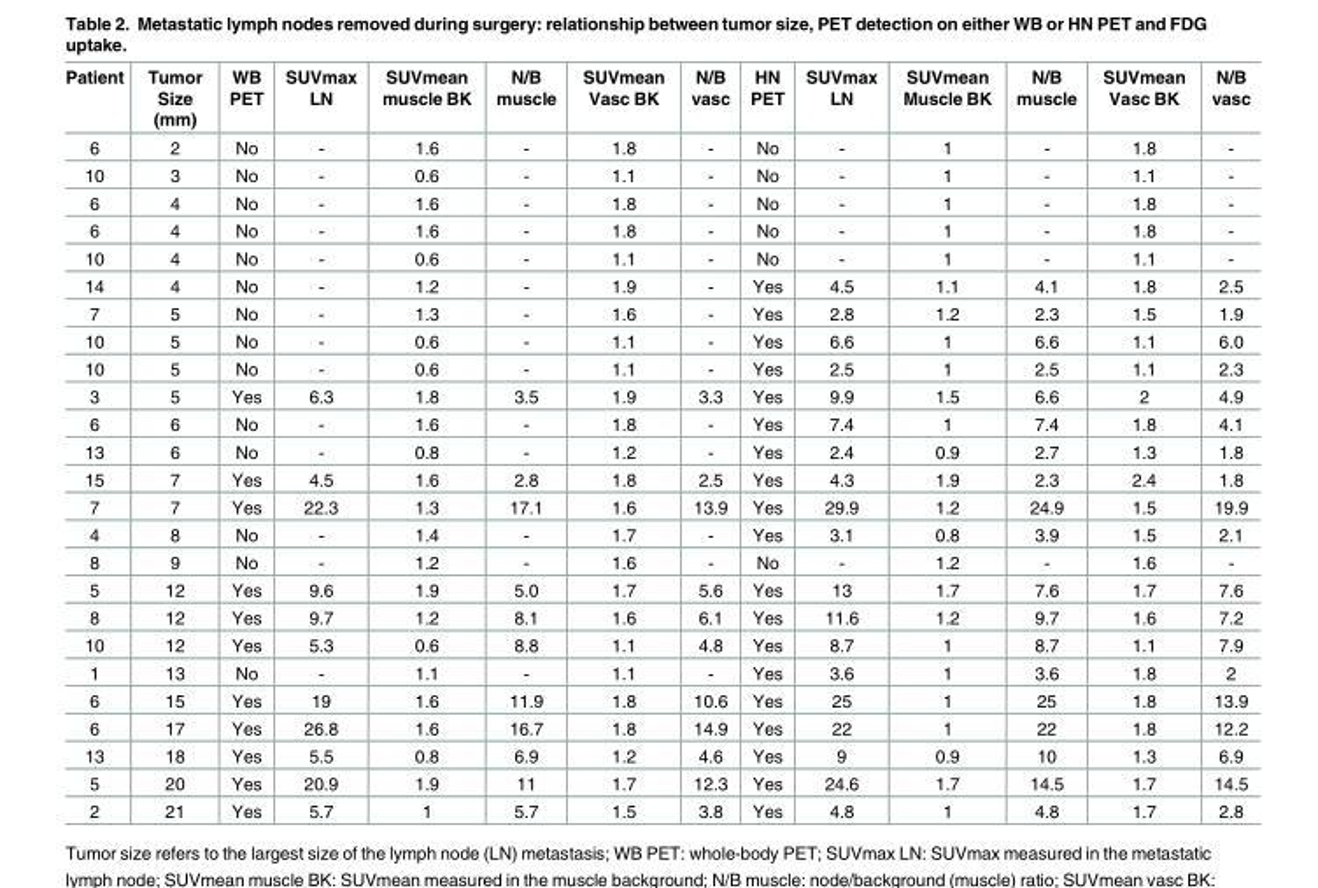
<table><thead><tr><td>Patient</td><td>Tumor Size (mm)</td><td>WB PET</td><td>SUVmax LN</td><td>SUVmean muscle BK</td><td>N/B muscle</td><td>SUVmean Vasc BK</td><td>N/B vasc</td><td>HN PET</td><td>SUVmax LN</td><td>SUVmean Muscle BK</td><td>N/B muscle</td><td>SUVmean Vasc BK</td><td>N/B vasc</td></tr></thead><tbody><tr><td>6</td><td>2</td><td>No</td><td>-</td><td>1.6</td><td>-</td><td>1.8</td><td>-</td><td>No</td><td>-</td><td>1</td><td>-</td><td>1.8</td><td>-</td></tr><tr><td>10</td><td>3</td><td>No</td><td>-</td><td>0.6</td><td>-</td><td>1.1</td><td>-</td><td>No</td><td>-</td><td>1</td><td>-</td><td>1.1</td><td>-</td></tr><tr><td>6</td><td>4</td><td>No</td><td>-</td><td>1.6</td><td>-</td><td>1.8</td><td>-</td><td>No</td><td>-</td><td>1</td><td>-</td><td>1.8</td><td>-</td></tr><tr><td>6</td><td>4</td><td>No</td><td>-</td><td>1.6</td><td>-</td><td>1.8</td><td>-</td><td>No</td><td>-</td><td>1</td><td>-</td><td>1.8</td><td>-</td></tr><tr><td>10</td><td>4</td><td>No</td><td>-</td><td>0.6</td><td>-</td><td>1.1</td><td>-</td><td>No</td><td>-</td><td>1</td><td>-</td><td>1.1</td><td>-</td></tr><tr><td>14</td><td>4</td><td>No</td><td>-</td><td>1.2</td><td>-</td><td>1.9</td><td>-</td><td>Yes</td><td>4.5</td><td>1.1</td><td>4.1</td><td>1.8</td><td>2.5</td></tr><tr><td>7</td><td>5</td><td>No</td><td>-</td><td>1.3</td><td>-</td><td>1.6</td><td>-</td><td>Yes</td><td>2.8</td><td>1.2</td><td>2.3</td><td>1.5</td><td>1.9</td></tr><tr><td>10</td><td>5</td><td>No</td><td>-</td><td>0.6</td><td>-</td><td>1.1</td><td>-</td><td>Yes</td><td>6.6</td><td>1</td><td>6.6</td><td>1.1</td><td>6.0</td></tr><tr><td>10</td><td>5</td><td>No</td><td>-</td><td>0.6</td><td>-</td><td>1.1</td><td>-</td><td>Yes</td><td>2.5</td><td>1</td><td>2.5</td><td>1.1</td><td>2.3</td></tr><tr><td>3</td><td>5</td><td>Yes</td><td>6.3</td><td>1.8</td><td>3.5</td><td>1.9</td><td>3.3</td><td>Yes</td><td>9.9</td><td>1.5</td><td>6.6</td><td>2</td><td>4.9</td></tr><tr><td>6</td><td>6</td><td>No</td><td>-</td><td>1.6</td><td>-</td><td>1.8</td><td>-</td><td>Yes</td><td>7.4</td><td>1</td><td>7.4</td><td>1.8</td><td>4.1</td></tr><tr><td>13</td><td>6</td><td>No</td><td>-</td><td>0.8</td><td>-</td><td>1.2</td><td>-</td><td>Yes</td><td>2.4</td><td>0.9</td><td>2.7</td><td>1.3</td><td>1.8</td></tr><tr><td>15</td><td>7</td><td>Yes</td><td>4.5</td><td>1.6</td><td>2.8</td><td>1.8</td><td>2.5</td><td>Yes</td><td>4.3</td><td>1.9</td><td>2.3</td><td>2.4</td><td>1.8</td></tr><tr><td>7</td><td>7</td><td>Yes</td><td>22.3</td><td>1.3</td><td>17.1</td><td>1.6</td><td>13.9</td><td>Yes</td><td>29.9</td><td>1.2</td><td>24.9</td><td>1.5</td><td>19.9</td></tr><tr><td>4</td><td>8</td><td>No</td><td>-</td><td>1.4</td><td>-</td><td>1.7</td><td>-</td><td>Yes</td><td>3.1</td><td>0.8</td><td>3.9</td><td>1.5</td><td>2.1</td></tr><tr><td>8</td><td>9</td><td>No</td><td>-</td><td>1.2</td><td>-</td><td>1.6</td><td>-</td><td>No</td><td>-</td><td>1.2</td><td>-</td><td>1.6</td><td>-</td></tr><tr><td>5</td><td>12</td><td>Yes</td><td>9.6</td><td>1.9</td><td>5.0</td><td>1.7</td><td>5.6</td><td>Yes</td><td>13</td><td>1.7</td><td>7.6</td><td>1.7</td><td>7.6</td></tr><tr><td>8</td><td>12</td><td>Yes</td><td>9.7</td><td>1.2</td><td>8.1</td><td>1.6</td><td>6.1</td><td>Yes</td><td>11.6</td><td>1.2</td><td>9.7</td><td>1.6</td><td>7.2</td></tr><tr><td>10</td><td>12</td><td>Yes</td><td>5.3</td><td>0.6</td><td>8.8</td><td>1.1</td><td>4.8</td><td>Yes</td><td>8.7</td><td>1</td><td>8.7</td><td>1.1</td><td>7.9</td></tr><tr><td>1</td><td>13</td><td>No</td><td>-</td><td>1.1</td><td>-</td><td>1.1</td><td>-</td><td>Yes</td><td>3.6</td><td>1</td><td>3.6</td><td>1.8</td><td>2</td></tr><tr><td>6</td><td>15</td><td>Yes</td><td>19</td><td>1.6</td><td>11.9</td><td>1.8</td><td>10.6</td><td>Yes</td><td>25</td><td>1</td><td>25</td><td>1.8</td><td>13.9</td></tr><tr><td>6</td><td>17</td><td>Yes</td><td>26.8</td><td>1.6</td><td>16.7</td><td>1.8</td><td>14.9</td><td>Yes</td><td>22</td><td>1</td><td>22</td><td>1.8</td><td>12.2</td></tr><tr><td>13</td><td>18</td><td>Yes</td><td>5.5</td><td>0.8</td><td>6.9</td><td>1.2</td><td>4.6</td><td>Yes</td><td>9</td><td>0.9</td><td>10</td><td>1.3</td><td>6.9</td></tr><tr><td>5</td><td>20</td><td>Yes</td><td>20.9</td><td>1.9</td><td>11</td><td>1.7</td><td>12.3</td><td>Yes</td><td>24.6</td><td>1.7</td><td>14.5</td><td>1.7</td><td>14.5</td></tr><tr><td>2</td><td>21</td><td>Yes</td><td>5.7</td><td>1</td><td>5.7</td><td>1.5</td><td>3.8</td><td>Yes</td><td>4.8</td><td>1</td><td>4.8</td><td>1.7</td><td>2.8</td></tr></tbody></table>